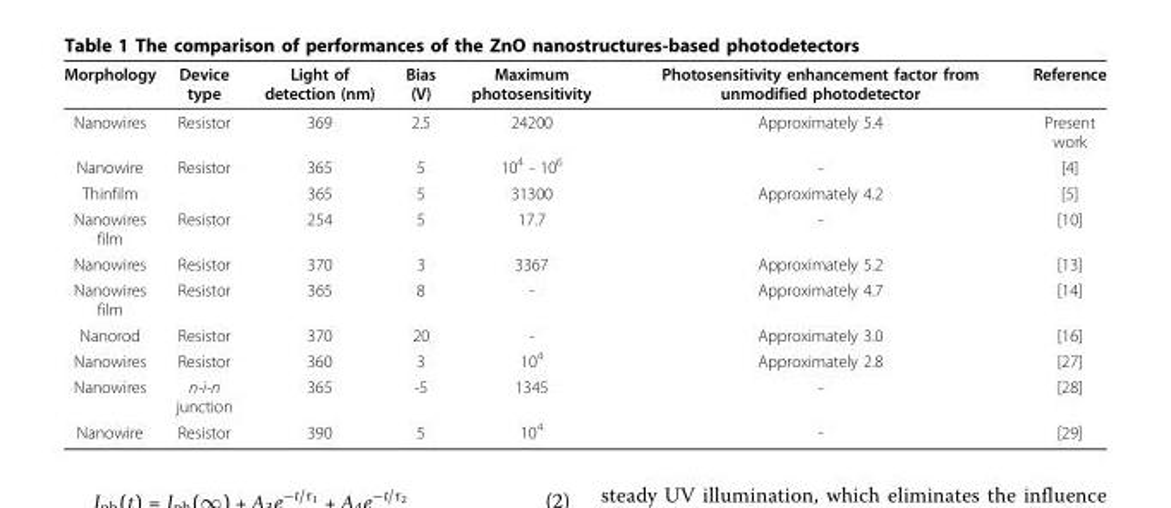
<table><thead><tr><td>Morphology</td><td>Device type</td><td>Light of detection (nm)</td><td>Bias (V)</td><td>Maximum photosensitivity</td><td>Photosensitivity enhancement factor from unmodified photodetector</td><td>Reference</td></tr></thead><tbody><tr><td>Nanowires</td><td>Resistor</td><td>369</td><td>2.5</td><td>24200</td><td>Approximately 5.4</td><td>Present work</td></tr><tr><td>Nanowire</td><td>Resistor</td><td>365</td><td>5</td><td>10<sup>4</sup> - 10<sup>6</sup></td><td>-</td><td>[4]</td></tr><tr><td>Thinfilm</td><td></td><td>365</td><td>5</td><td>31300</td><td>Approximately 4.2</td><td>[5]</td></tr><tr><td>Nanowires film</td><td>Resistor</td><td>254</td><td>5</td><td>17.7</td><td>-</td><td>[10]</td></tr><tr><td>Nanowires</td><td>Resistor</td><td>370</td><td>3</td><td>3367</td><td>Approximately 5.2</td><td>[13]</td></tr><tr><td>Nanowires film</td><td>Resistor</td><td>365</td><td>8</td><td>-</td><td>Approximately 4.7</td><td>[14]</td></tr><tr><td>Nanorod</td><td>Resistor</td><td>370</td><td>20</td><td>-</td><td>Approximately 3.0</td><td>[16]</td></tr><tr><td>Nanowires</td><td>Resistor</td><td>360</td><td>3</td><td>10<sup>4</sup></td><td>Approximately 2.8</td><td>[27]</td></tr><tr><td>Nanowires</td><td>n-i-n junction</td><td>365</td><td>-5</td><td>1345</td><td>-</td><td>[28]</td></tr><tr><td>Nanowire</td><td>Resistor</td><td>390</td><td>5</td><td>10<sup>4</sup></td><td>-</td><td>[29]</td></tr></tbody></table>